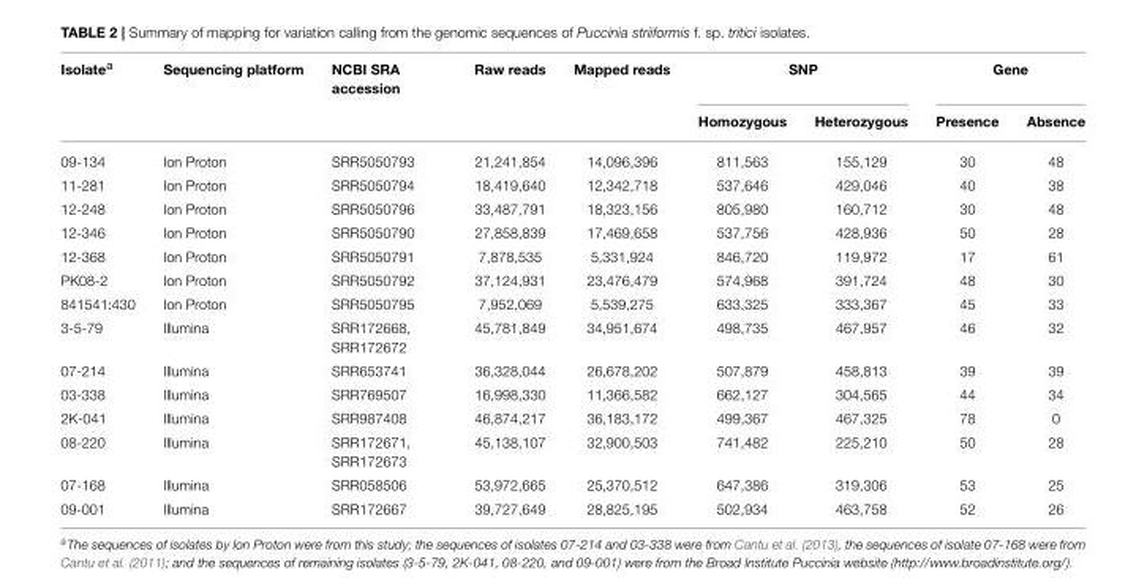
<table><thead><tr><td rowspan="2">Isolate<sup>a</sup></td><td rowspan="2">Sequencing platform</td><td rowspan="2">NCBI SRA accession</td><td rowspan="2">Raw reads</td><td rowspan="2">Mapped reads</td><td colspan="2">SNP</td><td colspan="2">Gene</td></tr><tr><td>Homozygous</td><td>Heterozygous</td><td>Presence</td><td>Absence</td></tr></thead><tbody><tr><td>09-134</td><td>Ion Proton</td><td>SRR5050793</td><td>21,241,854</td><td>14,096,396</td><td>811,563</td><td>155,129</td><td>30</td><td>48</td></tr><tr><td>11-281</td><td>Ion Proton</td><td>SRR5050794</td><td>18,419,640</td><td>12,342,718</td><td>537,646</td><td>429,046</td><td>40</td><td>38</td></tr><tr><td>12-248</td><td>Ion Proton</td><td>SRR5050796</td><td>33,487,791</td><td>18,323,156</td><td>805,980</td><td>160,712</td><td>30</td><td>48</td></tr><tr><td>12-346</td><td>Ion Proton</td><td>SRR5050790</td><td>27,858,839</td><td>17,469,658</td><td>537,756</td><td>428,936</td><td>50</td><td>28</td></tr><tr><td>12-368</td><td>Ion Proton</td><td>SRR5050791</td><td>7,878,535</td><td>5,331,924</td><td>846,720</td><td>119,972</td><td>17</td><td>61</td></tr><tr><td>PK08-2</td><td>Ion Proton</td><td>SRR5050792</td><td>37,124,931</td><td>23,476,479</td><td>574,968</td><td>391,724</td><td>48</td><td>30</td></tr><tr><td>841541:430</td><td>Ion Proton</td><td>SRR5050795</td><td>7,952,069</td><td>5,539,275</td><td>633,325</td><td>333,367</td><td>45</td><td>33</td></tr><tr><td>3-5-79</td><td>Illumina</td><td>SRR172668, SRR172672</td><td>45,781,849</td><td>34,951,674</td><td>498,735</td><td>467,957</td><td>46</td><td>32</td></tr><tr><td>07-214</td><td>Illumina</td><td>SRR653741</td><td>36,328,044</td><td>26,678,202</td><td>507,879</td><td>458,813</td><td>39</td><td>39</td></tr><tr><td>03-338</td><td>Illumina</td><td>SRR769507</td><td>16,998,330</td><td>11,366,582</td><td>662,127</td><td>304,565</td><td>44</td><td>34</td></tr><tr><td>2K-041</td><td>Illumina</td><td>SRR987408</td><td>46,874,217</td><td>36,183,172</td><td>499,367</td><td>467,325</td><td>78</td><td>0</td></tr><tr><td>08-220</td><td>Illumina</td><td>SRR172671, SRR172673</td><td>45,138,107</td><td>32,900,503</td><td>741,482</td><td>225,210</td><td>50</td><td>28</td></tr><tr><td>07-168</td><td>Illumina</td><td>SRR058506</td><td>53,972,665</td><td>25,370,512</td><td>647,386</td><td>319,306</td><td>53</td><td>25</td></tr><tr><td>09-001</td><td>Illumina</td><td>SRR172667</td><td>39,727,649</td><td>28,825,195</td><td>502,934</td><td>463,758</td><td>52</td><td>26</td></tr></tbody></table>